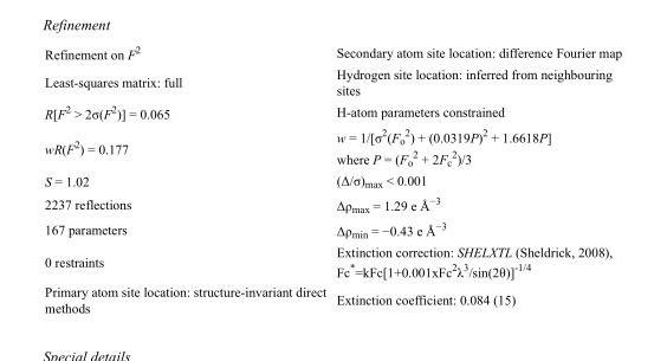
<table><tbody><tr><td>Refinement on F<sup>2</sup></td><td>Secondary atom site location: difference Fourier map</td></tr><tr><td>Least-squares matrix: full</td><td>Hydrogen site location: inferred from neighbouring sites</td></tr><tr><td>R[F<sup>2</sup> &gt; 2σ(F<sup>2</sup>)] = 0.065</td><td>H-atom parameters constrained</td></tr><tr><td>wR(F<sup>2</sup>) = 0.177</td><td>w = 1/[σ<sup>2</sup>(F<sub>o</sub> <sup>2</sup>) + (0.0319P)<sup>2</sup> + 1.6618P] where P = (F<sub>o</sub> <sup>2</sup> + 2F<sub>c</sub> <sup>2</sup>)/3</td></tr><tr><td>S = 1.02</td><td>(Δ/σ)<sub>max</sub> &lt; 0.001</td></tr><tr><td>2237 reflections</td><td>Δρ<sub>max</sub> = 1.29 e Å<sup>−3</sup></td></tr><tr><td>167 parameters</td><td>Δρ<sub>min</sub> = −0.43 e Å<sup>−3</sup></td></tr><tr><td>0 restraints</td><td>Extinction correction: SHELXTL (Sheldrick, 2008), Fc*=kFc[1+0.001xFc<sup>2</sup>λ<sup>3</sup>/sin(2θ)]<sup>-1/4</sup></td></tr><tr><td>Primary atom site location: structure-invariant direct methods</td><td>Extinction coefficient: 0.084 (15)</td></tr></tbody></table>